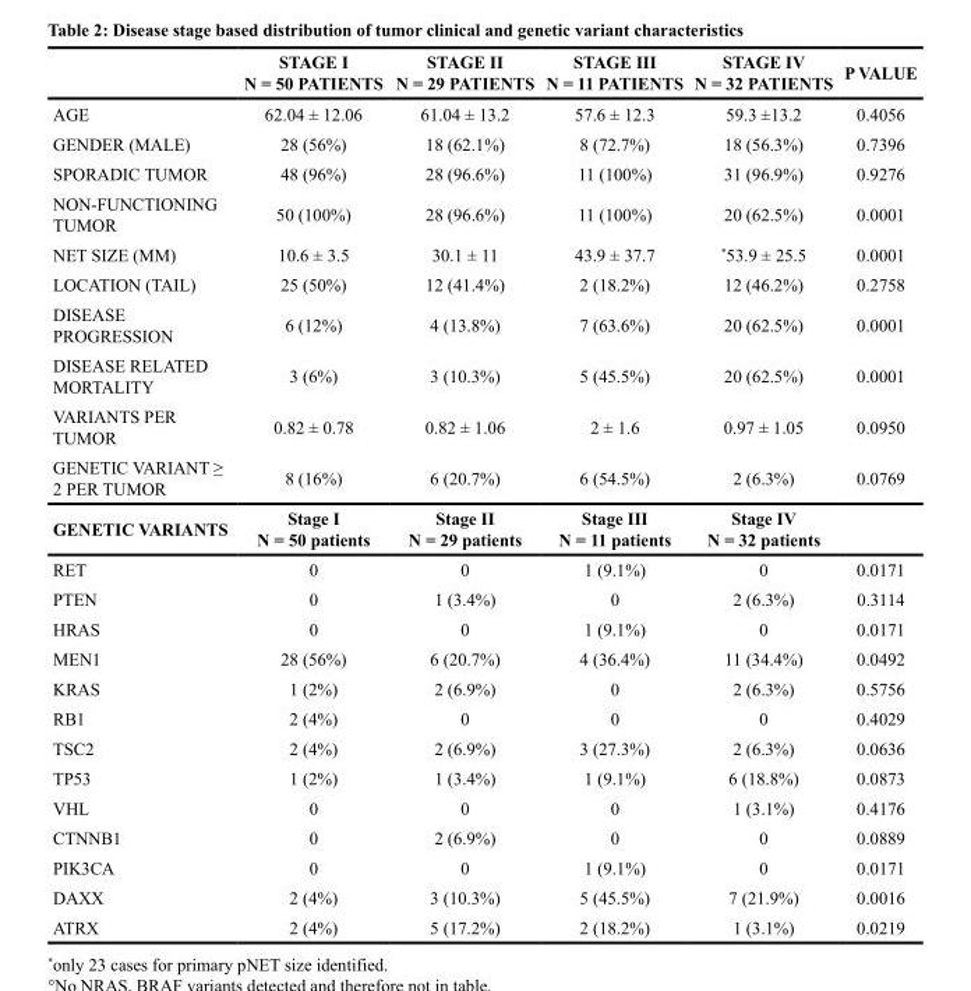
<table><thead><tr><td></td><td>STAGE I N = 50 PATIENTS</td><td>STAGE II N = 29 PATIENTS</td><td>STAGE III N = 11 PATIENTS</td><td>STAGE IV N = 32 PATIENTS</td><td>P VALUE</td></tr></thead><tbody><tr><td>AGE</td><td>62.04 ± 12.06</td><td>61.04 ± 13.2</td><td>57.6 ± 12.3</td><td>59.3 ±13.2</td><td>0.4056</td></tr><tr><td>GENDER (MALE)</td><td>28 (56%)</td><td>18 (62.1%)</td><td>8 (72.7%)</td><td>18 (56.3%)</td><td>0.7396</td></tr><tr><td>SPORADIC TUMOR</td><td>48 (96%)</td><td>28 (96.6%)</td><td>11 (100%)</td><td>31 (96.9%)</td><td>0.9276</td></tr><tr><td>NON-FUNCTIONING TUMOR</td><td>50 (100%)</td><td>28 (96.6%)</td><td>11 (100%)</td><td>20 (62.5%)</td><td>0.0001</td></tr><tr><td>NET SIZE (MM)</td><td>10.6 ± 3.5</td><td>30.1 ± 11</td><td>43.9 ± 37.7</td><td>*53.9 ± 25.5</td><td>0.0001</td></tr><tr><td>LOCATION (TAIL)</td><td>25 (50%)</td><td>12 (41.4%)</td><td>2 (18.2%)</td><td>12 (46.2%)</td><td>0.2758</td></tr><tr><td>DISEASE PROGRESSION</td><td>6 (12%)</td><td>4 (13.8%)</td><td>7 (63.6%)</td><td>20 (62.5%)</td><td>0.0001</td></tr><tr><td>DISEASE RELATED MORTALITY</td><td>3 (6%)</td><td>3 (10.3%)</td><td>5 (45.5%)</td><td>20 (62.5%)</td><td>0.0001</td></tr><tr><td>VARIANTS PER TUMOR</td><td>0.82 ± 0.78</td><td>0.82 ± 1.06</td><td>2 ± 1.6</td><td>0.97 ± 1.05</td><td>0.0950</td></tr><tr><td>GENETIC VARIANT ≥ 2 PER TUMOR</td><td>8 (16%)</td><td>6 (20.7%)</td><td>6 (54.5%)</td><td>2 (6.3%)</td><td>0.0769</td></tr><tr><td>GENETIC VARIANTS</td><td>Stage I N = 50 patients</td><td>Stage II N = 29 patients</td><td>Stage III N = 11 patients</td><td>Stage IV N = 32 patients</td><td></td></tr><tr><td>RET</td><td>0</td><td>0</td><td>1 (9.1%)</td><td>0</td><td>0.0171</td></tr><tr><td>PTEN</td><td>0</td><td>1 (3.4%)</td><td>0</td><td>2 (6.3%)</td><td>0.3114</td></tr><tr><td>HRAS</td><td>0</td><td>0</td><td>1 (9.1%)</td><td>0</td><td>0.0171</td></tr><tr><td>MEN1</td><td>28 (56%)</td><td>6 (20.7%)</td><td>4 (36.4%)</td><td>11 (34.4%)</td><td>0.0492</td></tr><tr><td>KRAS</td><td>1 (2%)</td><td>2 (6.9%)</td><td>0</td><td>2 (6.3%)</td><td>0.5756</td></tr><tr><td>RB1</td><td>2 (4%)</td><td>0</td><td>0</td><td>0</td><td>0.4029</td></tr><tr><td>TSC2</td><td>2 (4%)</td><td>2 (6.9%)</td><td>3 (27.3%)</td><td>2 (6.3%)</td><td>0.0636</td></tr><tr><td>TP53</td><td>1 (2%)</td><td>1 (3.4%)</td><td>1 (9.1%)</td><td>6 (18.8%)</td><td>0.0873</td></tr><tr><td>VHL</td><td>0</td><td>0</td><td>0</td><td>1 (3.1%)</td><td>0.4176</td></tr><tr><td>CTNNB1</td><td>0</td><td>2 (6.9%)</td><td>0</td><td>0</td><td>0.0889</td></tr><tr><td>PIK3CA</td><td>0</td><td>0</td><td>1 (9.1%)</td><td>0</td><td>0.0171</td></tr><tr><td>DAXX</td><td>2 (4%)</td><td>3 (10.3%)</td><td>5 (45.5%)</td><td>7 (21.9%)</td><td>0.0016</td></tr><tr><td>ATRX</td><td>2 (4%)</td><td>5 (17.2%)</td><td>2 (18.2%)</td><td>1 (3.1%)</td><td>0.0219</td></tr></tbody></table>